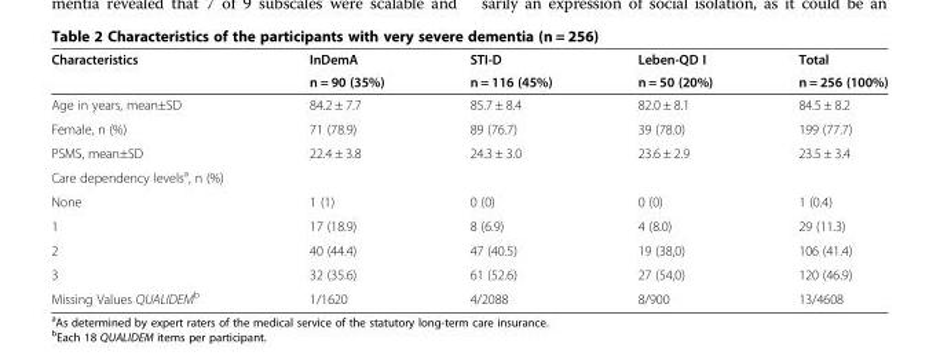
<table><thead><tr><td rowspan="2">Characteristics</td><td rowspan="2">InDemA n = 90 (35%)</td><td rowspan="2">STI-D n = 116 (45%)</td><td rowspan="2">Leben-QD I n = 50 (20%)</td><td rowspan="2">Total n = 256 (100%)</td></tr><tr></tr></thead><tbody><tr><td>Age in years, mean±SD</td><td>84.2 ± 7.7</td><td>85.7 ± 8.4</td><td>82.0 ± 8.1</td><td>84.5 ± 8.2</td></tr><tr><td>Female, n (%)</td><td>71 (78.9)</td><td>89 (76.7)</td><td>39 (78.0)</td><td>199 (77.7)</td></tr><tr><td>PSMS, mean±SD</td><td>22.4 ± 3.8</td><td>24.3 ± 3.0</td><td>23.6 ± 2.9</td><td>23.5 ± 3.4</td></tr><tr><td colspan="5">Care dependency levels<sup>a</sup>, n (%)</td></tr><tr><td>None</td><td>1 (1)</td><td>0 (0)</td><td>0 (0)</td><td>1 (0.4)</td></tr><tr><td>1</td><td>17 (18.9)</td><td>8 (6.9)</td><td>4 (8.0)</td><td>29 (11.3)</td></tr><tr><td>2</td><td>40 (44.4)</td><td>47 (40.5)</td><td>19 (38,0)</td><td>106 (41.4)</td></tr><tr><td>3</td><td>32 (35.6)</td><td>61 (52.6)</td><td>27 (54,0)</td><td>120 (46.9)</td></tr><tr><td>Missing Values QUALIDEM<sup>b</sup></td><td>1/1620</td><td>4/2088</td><td>8/900</td><td>13/4608</td></tr></tbody></table>